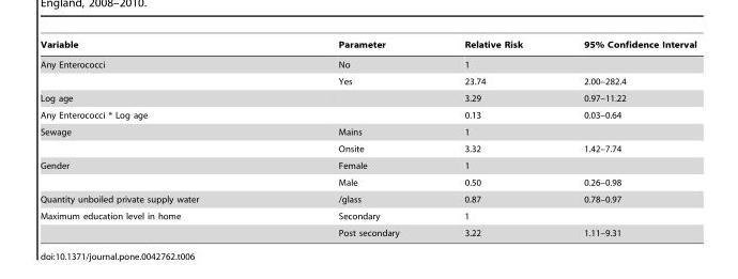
<table><thead><tr><td>Variable</td><td>Parameter</td><td>Relative Risk</td><td>95% Confidence Interval</td></tr></thead><tbody><tr><td rowspan="2">Any Enterococci</td><td>No</td><td>1</td><td></td></tr><tr><td>Yes</td><td>23.74</td><td>2.00–282.4</td></tr><tr><td>Log age</td><td></td><td>3.29</td><td>0.97–11.22</td></tr><tr><td>Any Enterococci * Log age</td><td></td><td>0.13</td><td>0.03–0.64</td></tr><tr><td rowspan="2">Sewage</td><td>Mains</td><td>1</td><td></td></tr><tr><td>Onsite</td><td>3.32</td><td>1.42–7.74</td></tr><tr><td rowspan="2">Gender</td><td>Female</td><td>1</td><td></td></tr><tr><td>Male</td><td>0.50</td><td>0.26–0.98</td></tr><tr><td>Quantity unboiled private supply water</td><td>/glass</td><td>0.87</td><td>0.78–0.97</td></tr><tr><td rowspan="2">Maximum education level in home</td><td>Secondary</td><td>1</td><td></td></tr><tr><td>Post secondary</td><td>3.22</td><td>1.11–9.31</td></tr></tbody></table>